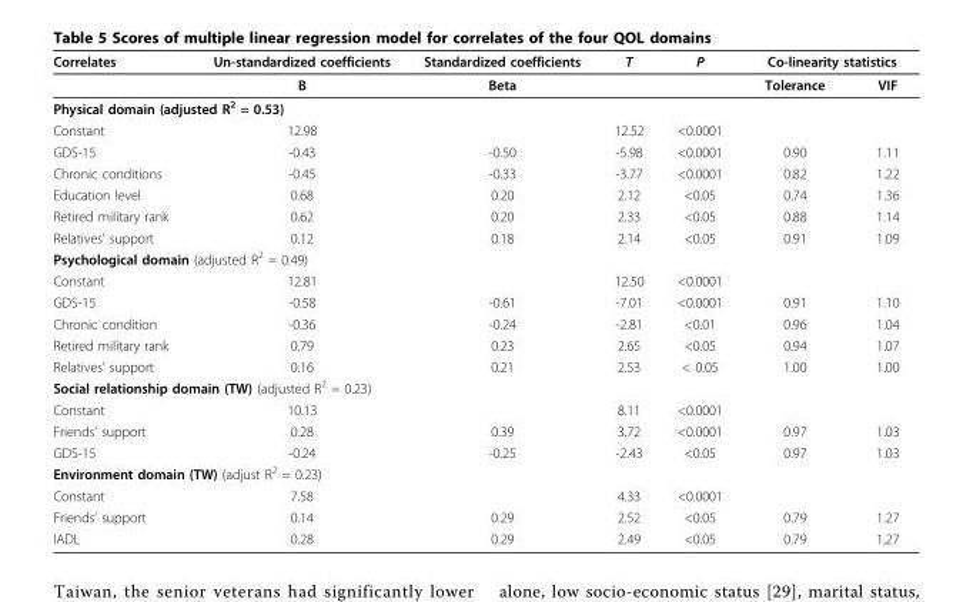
<table><thead><tr><td rowspan="2">Correlates</td><td rowspan="2">Un-standardized coefficients B</td><td rowspan="2">Standardized coefficients Beta</td><td rowspan="2">T</td><td rowspan="2">P</td><td colspan="2">Co-linearity statistics</td></tr><tr><td>Tolerance</td><td>VIF</td></tr></thead><tbody><tr><td colspan="7">Physical domain (adjusted R<sup>2</sup> = 0.53)</td></tr><tr><td>Constant</td><td>12.98</td><td></td><td>12.52</td><td>&lt;0.0001</td><td></td><td></td></tr><tr><td>GDS-15</td><td>-0.43</td><td>-0.50</td><td>-5.98</td><td>&lt;0.0001</td><td>0.90</td><td>1.11</td></tr><tr><td>Chronic conditions</td><td>-0.45</td><td>-0.33</td><td>-3.77</td><td>&lt;0.0001</td><td>0.82</td><td>1.22</td></tr><tr><td>Education level</td><td>0.68</td><td>0.20</td><td>2.12</td><td>&lt;0.05</td><td>0.74</td><td>1.36</td></tr><tr><td>Retired military rank</td><td>0.62</td><td>0.20</td><td>2.33</td><td>&lt;0.05</td><td>0.88</td><td>1.14</td></tr><tr><td>Relatives’ support</td><td>0.12</td><td>0.18</td><td>2.14</td><td>&lt;0.05</td><td>0.91</td><td>1.09</td></tr><tr><td colspan="7">Psychological domain (adjusted R<sup>2</sup> = 0.49)</td></tr><tr><td>Constant</td><td>12.81</td><td></td><td>12.50</td><td>&lt;0.0001</td><td></td><td></td></tr><tr><td>GDS-15</td><td>-0.58</td><td>-0.61</td><td>-7.01</td><td>&lt;0.0001</td><td>0.91</td><td>1.10</td></tr><tr><td>Chronic condition</td><td>-0.36</td><td>-0.24</td><td>-2.81</td><td>&lt;0.01</td><td>0.96</td><td>1.04</td></tr><tr><td>Retired military rank</td><td>0.79</td><td>0.23</td><td>2.65</td><td>&lt;0.05</td><td>0.94</td><td>1.07</td></tr><tr><td>Relatives’ support</td><td>0.16</td><td>0.21</td><td>2.53</td><td>&lt; 0.05</td><td>1.00</td><td>1.00</td></tr><tr><td colspan="7">Social relationship domain (TW) (adjusted R<sup>2</sup> = 0.23)</td></tr><tr><td>Constant</td><td>10.13</td><td></td><td>8.11</td><td>&lt;0.0001</td><td></td><td></td></tr><tr><td>Friends’ support</td><td>0.28</td><td>0.39</td><td>3.72</td><td>&lt;0.0001</td><td>0.97</td><td>1.03</td></tr><tr><td>GDS-15</td><td>-0.24</td><td>-0.25</td><td>-2.43</td><td>&lt;0.05</td><td>0.97</td><td>1.03</td></tr><tr><td colspan="7">Environment domain (TW) (adjust R<sup>2</sup> = 0.23)</td></tr><tr><td>Constant</td><td>7.58</td><td></td><td>4.33</td><td>&lt;0.0001</td><td></td><td></td></tr><tr><td>Friends’ support</td><td>0.14</td><td>0.29</td><td>2.52</td><td>&lt;0.05</td><td>0.79</td><td>1.27</td></tr><tr><td>IADL</td><td>0.28</td><td>0.29</td><td>2.49</td><td>&lt;0.05</td><td>0.79</td><td>1,27</td></tr></tbody></table>